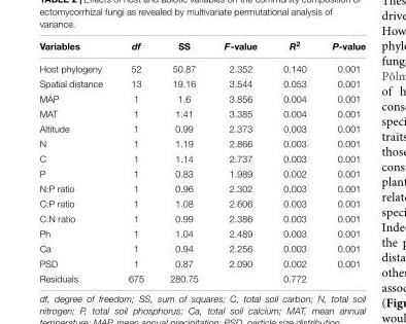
<table><thead><tr><td>Variables</td><td>df</td><td>SS</td><td>F-value</td><td>R<sup>2</sup></td><td>P-value</td></tr></thead><tbody><tr><td>Host phylogeny</td><td>52</td><td>50.87</td><td>2.352</td><td>0.140</td><td>0.001</td></tr><tr><td>Spatial distance</td><td>13</td><td>19.16</td><td>3.544</td><td>0.053</td><td>0.001</td></tr><tr><td>MAP</td><td>1</td><td>1.6</td><td>3.856</td><td>0.004</td><td>0.001</td></tr><tr><td>MAT</td><td>1</td><td>1.41</td><td>3.385</td><td>0.004</td><td>0.001</td></tr><tr><td>Altitude</td><td>1</td><td>0.99</td><td>2.373</td><td>0.003</td><td>0.001</td></tr><tr><td>N</td><td>1</td><td>1.19</td><td>2.866</td><td>0.003</td><td>0.001</td></tr><tr><td>C</td><td>1</td><td>1.14</td><td>2.737</td><td>0.003</td><td>0.001</td></tr><tr><td>P</td><td>1</td><td>0.83</td><td>1.989</td><td>0.002</td><td>0.001</td></tr><tr><td>N:P ratio</td><td>1</td><td>0.96</td><td>2.302</td><td>0.003</td><td>0.001</td></tr><tr><td>C:P ratio</td><td>1</td><td>1.08</td><td>2.606</td><td>0.003</td><td>0.001</td></tr><tr><td>C:N ratio</td><td>1</td><td>0.99</td><td>2.386</td><td>0.003</td><td>0.001</td></tr><tr><td>Ph</td><td>1</td><td>1.04</td><td>2.489</td><td>0.003</td><td>0.001</td></tr><tr><td>Ca</td><td>1</td><td>0.94</td><td>2.256</td><td>0.003</td><td>0.001</td></tr><tr><td>PSD</td><td>1</td><td>0.87</td><td>2.090</td><td>0.002</td><td>0.001</td></tr><tr><td>Residuals</td><td>675</td><td>280.75</td><td></td><td>0.772</td><td></td></tr></tbody></table>